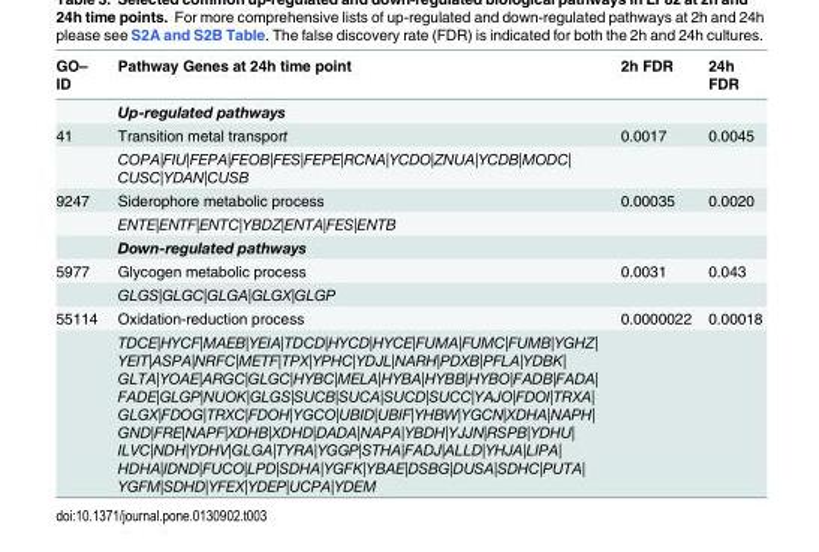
<table><thead><tr><td>GO– ID</td><td>Pathway Genes at 24h time point</td><td>2h FDR</td><td>24h FDR</td></tr></thead><tbody><tr><td></td><td>Up-regulated pathways</td><td></td><td></td></tr><tr><td rowspan="2">41</td><td>Transition metal transport</td><td>0.0017</td><td>0.0045</td></tr><tr><td>COPA|FIU|FEPA|FEOB|FES|FEPE|RCNA|YCDO|ZNUA|YCDB|MODC| CUSC|YDAN|CUSB</td><td></td><td></td></tr><tr><td rowspan="3">9247</td><td>Siderophore metabolic process</td><td>0.00035</td><td>0.0020</td></tr><tr><td>ENTE|ENTF|ENTC|YBDZ|ENTA|FES|ENTB</td><td></td><td></td></tr><tr><td>Down-regulated pathways</td><td></td><td></td></tr><tr><td rowspan="2">5977</td><td>Glycogen metabolic process</td><td>0.0031</td><td>0.043</td></tr><tr><td>GLGS|GLGC|GLGA|GLGX|GLGP</td><td></td><td></td></tr><tr><td rowspan="2">55114</td><td>Oxidation-reduction process</td><td>0.0000022</td><td>0.00018</td></tr><tr><td>TDCE|HYCF|MAEB|YEIA|TDCD|HYCD|HYCE|FUMA|FUMC|FUMB|YGHZ| YEIT|ASPA|NRFC|METF|TPX|YPHC|YDJL|NARH|PDXB|PFLA|YDBK| GLTA|YOAE|ARGC|GLGC|HYBC|MELA|HYBA|HYBB|HYBO|FADB|FADA| FADE|GLGP|NUOK|GLGS|SUCB|SUCA|SUCD|SUCC|YAJO|FDOI|TRXA| GLGX|FDOG|TRXC|FDOH|YGCO|UBID|UBIF|YHBW|YGCN|XDHA|NAPH| GND|FRE|NAPF|XDHB|XDHD|DADA|NAPA|YBDH|YJJN|RSPB|YDHU| ILVC|NDH|YDHV|GLGA|TYRA|YGGP|STHA|FADJ|ALLD|YHJA|LIPA| HDHA|IDND|FUCO|LPD|SDHA|YGFK|YBAE|DSBG|DUSA|SDHC|PUTA| YGFM|SDHD|YFEX|YDEP|UCPA|YDEM</td><td></td><td></td></tr></tbody></table>